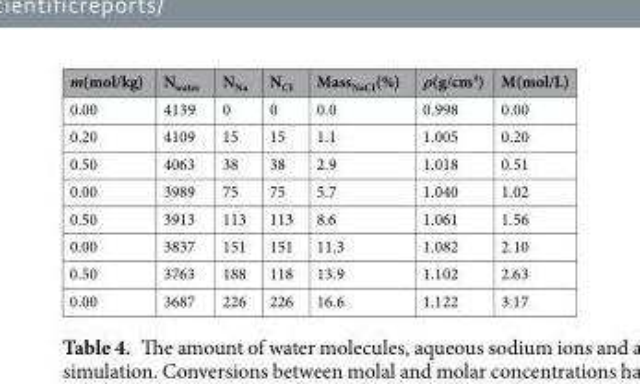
<table><thead><tr><td>m(mol/kg)</td><td>N<sub>water</sub></td><td>N<sub>Na</sub></td><td>N<sub>CI</sub></td><td>Mass<sub>NaCI</sub>(%)</td><td>ρ(g/cm<sup>3</sup>)</td><td>M(mol/L)</td></tr></thead><tbody><tr><td>0.00</td><td>4139</td><td>0</td><td>0</td><td>0.0</td><td>0.998</td><td>0.00</td></tr><tr><td>0.20</td><td>4109</td><td>15</td><td>15</td><td>1.1</td><td>1.005</td><td>0.20</td></tr><tr><td>0.50</td><td>4063</td><td>38</td><td>38</td><td>2.9</td><td>1.018</td><td>0.51</td></tr><tr><td>0.00</td><td>3989</td><td>75</td><td>75</td><td>5.7</td><td>1.040</td><td>1.02</td></tr><tr><td>0.50</td><td>3913</td><td>113</td><td>113</td><td>8.6</td><td>1.061</td><td>1.56</td></tr><tr><td>0.00</td><td>3837</td><td>151</td><td>151</td><td>11.3</td><td>1.082</td><td>2.10</td></tr><tr><td>0.50</td><td>3763</td><td>188</td><td>118</td><td>13.9</td><td>1.102</td><td>2.63</td></tr><tr><td>0.00</td><td>3687</td><td>226</td><td>226</td><td>16.6</td><td>1.122</td><td>3.17</td></tr></tbody></table>